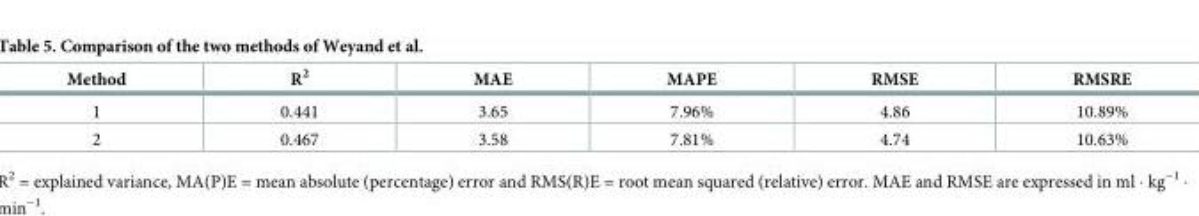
<table><thead><tr><td>Method</td><td>R<sup>2</sup></td><td>MAE</td><td>MAPE</td><td>RMSE</td><td>RMSRE</td></tr></thead><tbody><tr><td>1</td><td>0.441</td><td>3.65</td><td>7.96%</td><td>4.86</td><td>10.89%</td></tr><tr><td>2</td><td>0.467</td><td>3.58</td><td>7.81%</td><td>4.74</td><td>10.63%</td></tr></tbody></table>